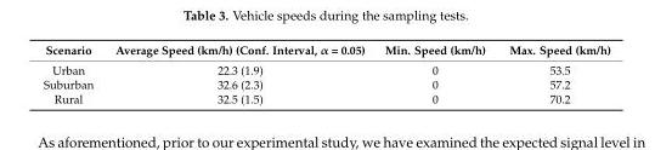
<table><thead><tr><td>Scenario</td><td>Average Speed (km/h) (Conf. Interval, α = 0.05)</td><td>Min. Speed (km/h)</td><td>Max. Speed (km/h)</td></tr></thead><tbody><tr><td>Urban</td><td>22.3 (1.9)</td><td>0</td><td>53.5</td></tr><tr><td>Suburban</td><td>32.6 (2.3)</td><td>0</td><td>57.2</td></tr><tr><td>Rural</td><td>32.5 (1.5)</td><td>0</td><td>70.2</td></tr></tbody></table>